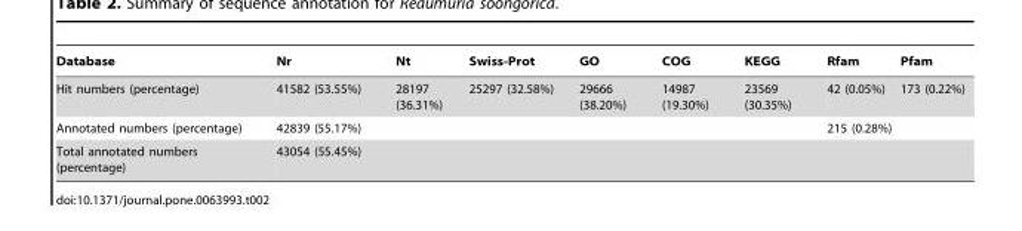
<table><thead><tr><td>Database</td><td>Nr</td><td>Nt</td><td>Swiss-Prot</td><td>GO</td><td>COG</td><td>KEGG</td><td>Rfam</td><td>Pfam</td></tr></thead><tbody><tr><td>Hit numbers (percentage)</td><td>41582 (53.55%)</td><td>28197 (36.31%)</td><td>25297 (32.58%)</td><td>29666 (38.20%)</td><td>14987 (19.30%)</td><td>23569 (30.35%)</td><td>42 (0.05%)</td><td>173 (0.22%)</td></tr><tr><td>Annotated numbers (percentage)</td><td colspan="6">42839 (55.17%)</td><td colspan="2">215 (0.28%)</td></tr><tr><td>Total annotated numbers (percentage)</td><td colspan="8">43054 (55.45%)</td></tr></tbody></table>